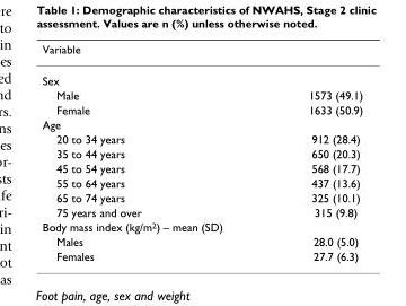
<table><thead><tr><td>Variable</td><td></td></tr></thead><tbody><tr><td colspan="2">Sex</td></tr><tr><td>Male</td><td>1573 (49.1)</td></tr><tr><td>Female</td><td>1633 (50.9)</td></tr><tr><td colspan="2">Age</td></tr><tr><td>20 to 34 years</td><td>912 (28.4)</td></tr><tr><td>35 to 44 years</td><td>650 (20.3)</td></tr><tr><td>45 to 54 years</td><td>568 (17.7)</td></tr><tr><td>55 to 64 years</td><td>437 (13.6)</td></tr><tr><td>65 to 74 years</td><td>325 (10.1)</td></tr><tr><td>75 years and over</td><td>315 (9.8)</td></tr><tr><td colspan="2">Body mass index (kg/m<sup>2</sup>) – mean (SD)</td></tr><tr><td>Males</td><td>28.0 (5.0)</td></tr><tr><td>Females</td><td>27.7 (6.3)</td></tr></tbody></table>